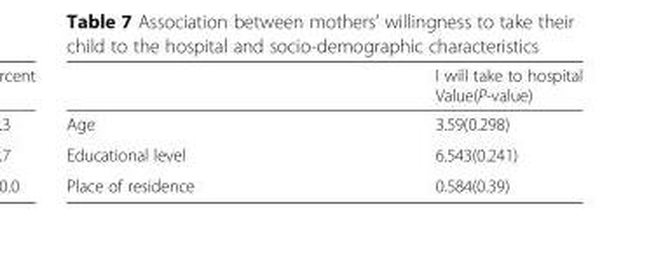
<table><thead><tr><td></td><td>I will take to hospital Value(P-value)</td></tr></thead><tbody><tr><td>Age</td><td>3.59(0.298)</td></tr><tr><td>Educational level</td><td>6.543(0.241)</td></tr><tr><td>Place of residence</td><td>0.584(0.39)</td></tr></tbody></table>